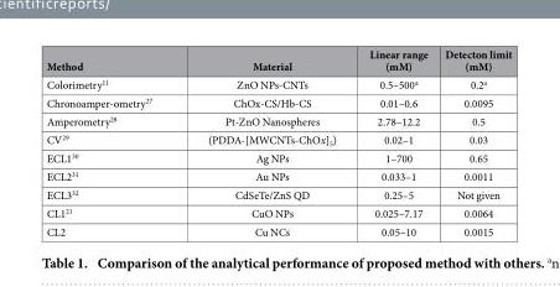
<table><thead><tr><td>Method</td><td>Material</td><td>Linear range (mM)</td><td>Detecton limit (mM)</td></tr></thead><tbody><tr><td>Colorimetry<sup>11</sup></td><td>ZnO NPs-CNTs</td><td>0.5–500<sup>a</sup></td><td>0.2<sup>a</sup></td></tr><tr><td>Chronoamper-ometry<sup>27</sup></td><td>ChOx-CS/Hb-CS</td><td>0.01–0.6</td><td>0.0095</td></tr><tr><td>Amperometry<sup>28</sup></td><td>Pt-ZnO Nanospheres</td><td>2.78–12.2</td><td>0.5</td></tr><tr><td>CV<sup>29</sup></td><td>(PDDA-[MWCNTs-ChOx]<sub>5</sub>)</td><td>0.02–1</td><td>0.03</td></tr><tr><td>ECL1<sup>30</sup></td><td>Ag NPs</td><td>1–700</td><td>0.65</td></tr><tr><td>ECL2<sup>31</sup></td><td>Au NPs</td><td>0.033–1</td><td>0.0011</td></tr><tr><td>ECL3<sup>32</sup></td><td>CdSeTe/ZnS QD</td><td>0.25–5</td><td>Not given</td></tr><tr><td>CL1<sup>21</sup></td><td>CuO NPs</td><td>0.025–7.17</td><td>0.0064</td></tr><tr><td>CL2</td><td>Cu NCs</td><td>0.05–10</td><td>0.0015</td></tr></tbody></table>